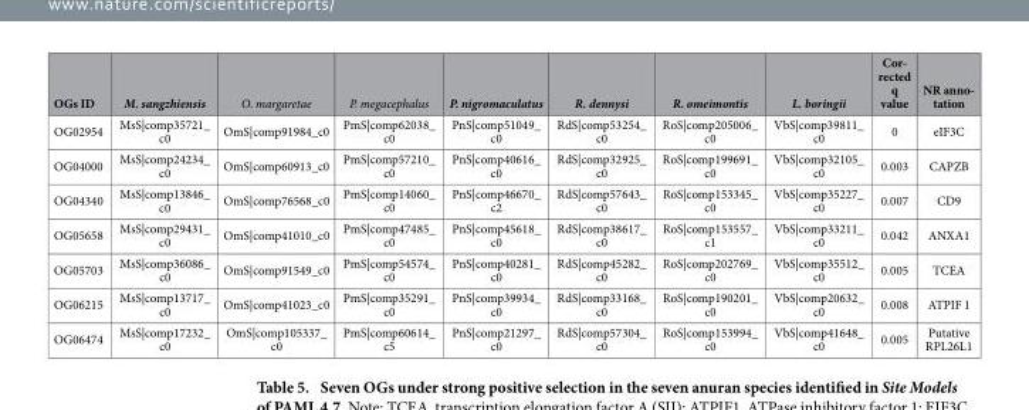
<table><thead><tr><td>OGs ID</td><td>M. sangzhiensis</td><td>O. margaretae</td><td>P. megacephalus</td><td>P. nigromaculatus</td><td>R. dennysi</td><td>R. omeimontis</td><td>L. boringii</td><td>Cor- rected q value</td><td>NR anno- tation</td></tr></thead><tbody><tr><td>OG02954</td><td>MsS|comp35721_ c0</td><td>OmS|comp91984_c0</td><td>PmS|comp62038_ c0</td><td>PnS|comp51049_ c0</td><td>RdS|comp53254_ c0</td><td>RoS|comp205006_ c0</td><td>VbS|comp39811_ c0</td><td>0</td><td>eIF3C</td></tr><tr><td>OG04000</td><td>MsS|comp24234_ c0</td><td>OmS|comp60913_c0</td><td>PmS|comp57210_ c0</td><td>PnS|comp40616_ c0</td><td>RdS|comp32925_ c0</td><td>RoS|comp199691_ c0</td><td>VbS|comp32105_ c0</td><td>0.003</td><td>CAPZB</td></tr><tr><td>OG04340</td><td>MsS|comp13846_ c0</td><td>OmS|comp76568_c0</td><td>PmS|comp14060_ c0</td><td>PnS|comp46670_ c2</td><td>RdS|comp57643_ c0</td><td>RoS|comp153345_ c0</td><td>VbS|comp35227_ c0</td><td>0.007</td><td>CD9</td></tr><tr><td>OG05658</td><td>MsS|comp29431_ c0</td><td>OmS|comp41010_c0</td><td>PmS|comp47485_ c0</td><td>PnS|comp45618_ c0</td><td>RdS|comp38617_ c0</td><td>RoS|comp153557_ c1</td><td>VbS|comp33211_ c0</td><td>0.042</td><td>ANXA1</td></tr><tr><td>OG05703</td><td>MsS|comp36086_ c0</td><td>OmS|comp91549_c0</td><td>PmS|comp54574_ c0</td><td>PnS|comp40281_ c0</td><td>RdS|comp45282_ c0</td><td>RoS|comp202769_ c0</td><td>VbS|comp35512_ c0</td><td>0.005</td><td>TCEA</td></tr><tr><td>OG06215</td><td>MsS|comp13717_ c0</td><td>OmS|comp41023_c0</td><td>PmS|comp35291_ c0</td><td>PnS|comp39934_ c0</td><td>RdS|comp33168_ c0</td><td>RoS|comp190201_ c0</td><td>VbS|comp20632_ c0</td><td>0.008</td><td>ATPIF 1</td></tr><tr><td>OG06474</td><td>MsS|comp17232_ c0</td><td>OmS|comp105337_ c0</td><td>PmS|comp60614_ c5</td><td>PnS|comp21297_ c0</td><td>RdS|comp57304_ c0</td><td>RoS|comp153994_ c0</td><td>VbS|comp41648_ c0</td><td>0.005</td><td>Putative RPL26L1</td></tr></tbody></table>